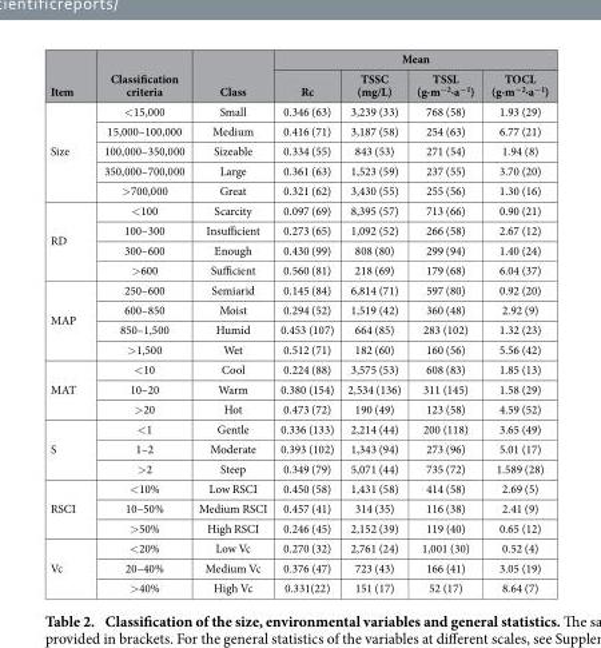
<table><thead><tr><td rowspan="2">Item</td><td rowspan="2">Classification criteria</td><td rowspan="2">Class</td><td colspan="4">Mean</td></tr><tr><td>Rc</td><td>TSSC (mg/L)</td><td>TSSL (g·m<sup>−2</sup>·a<sup>−1</sup>)</td><td>TOCL (g·m<sup>−2</sup>·a<sup>−1</sup>)</td></tr></thead><tbody><tr><td rowspan="5">Size</td><td>&lt; 15,000</td><td>Small</td><td>0.346 (63)</td><td>3,239 (33)</td><td>768 (58)</td><td>1.93 (29)</td></tr><tr><td>15,000–100,000</td><td>Medium</td><td>0.416 (71)</td><td>3,187 (58)</td><td>254 (63)</td><td>6.77 (21)</td></tr><tr><td>100,000–350,000</td><td>Sizeable</td><td>0.334 (55)</td><td>843 (53)</td><td>271 (54)</td><td>1.94 (8)</td></tr><tr><td>350,000–700,000</td><td>Large</td><td>0.361 (63)</td><td>1,523 (59)</td><td>237 (55)</td><td>3.70 (20)</td></tr><tr><td>&gt; 700,000</td><td>Great</td><td>0.321 (62)</td><td>3,430 (55)</td><td>255 (56)</td><td>1.30 (16)</td></tr><tr><td rowspan="4">RD</td><td>&lt; 100</td><td>Scarcity</td><td>0.097 (69)</td><td>8,395 (57)</td><td>713 (66)</td><td>0.90 (21)</td></tr><tr><td>100–300</td><td>Insufficient</td><td>0.273 (65)</td><td>1,092 (52)</td><td>266 (58)</td><td>2.67 (12)</td></tr><tr><td>300–600</td><td>Enough</td><td>0.430 (99)</td><td>808 (80)</td><td>299 (94)</td><td>1.40 (24)</td></tr><tr><td>&gt; 600</td><td>Sufficient</td><td>0.560 (81)</td><td>218 (69)</td><td>179 (68)</td><td>6.04 (37)</td></tr><tr><td rowspan="4">MAP</td><td>250–600</td><td>Semiarid</td><td>0.145 (84)</td><td>6,814 (71)</td><td>597 (80)</td><td>0.92 (20)</td></tr><tr><td>600–850</td><td>Moist</td><td>0.294 (52)</td><td>1,519 (42)</td><td>360 (48)</td><td>2.92 (9)</td></tr><tr><td>850–1,500</td><td>Humid</td><td>0.453 (107)</td><td>664 (85)</td><td>283 (102)</td><td>1.32 (23)</td></tr><tr><td>&gt; 1,500</td><td>Wet</td><td>0.512 (71)</td><td>182 (60)</td><td>160 (56)</td><td>5.56 (42)</td></tr><tr><td rowspan="3">MAT</td><td>&lt; 10</td><td>Cool</td><td>0.224 (88)</td><td>3,575 (53)</td><td>608 (83)</td><td>1.85 (13)</td></tr><tr><td>10–20</td><td>Warm</td><td>0.380 (154)</td><td>2,534 (136)</td><td>311 (145)</td><td>1.58 (29)</td></tr><tr><td>&gt; 20</td><td>Hot</td><td>0.473 (72)</td><td>190 (49)</td><td>123 (58)</td><td>4.59 (52)</td></tr><tr><td rowspan="3">S</td><td>&lt; 1</td><td>Gentle</td><td>0.336 (133)</td><td>2,214 (44)</td><td>200 (118)</td><td>3.65 (49)</td></tr><tr><td>1–2</td><td>Moderate</td><td>0.393 (102)</td><td>1,343 (94)</td><td>273 (96)</td><td>5.01 (17)</td></tr><tr><td>&gt; 2</td><td>Steep</td><td>0.349 (79)</td><td>5,071 (44)</td><td>735 (72)</td><td>1.589 (28)</td></tr><tr><td rowspan="3">RSCI</td><td>&lt; 10%</td><td>Low RSCI</td><td>0.450 (58)</td><td>1,431 (58)</td><td>414 (58)</td><td>2.69 (5)</td></tr><tr><td>10–50%</td><td>Medium RSCI</td><td>0.457 (41)</td><td>314 (35)</td><td>116 (38)</td><td>2.41 (9)</td></tr><tr><td>&gt; 50%</td><td>High RSCI</td><td>0.246 (45)</td><td>2,152 (39)</td><td>119 (40)</td><td>0.65 (12)</td></tr><tr><td rowspan="3">Vc</td><td>&lt; 20%</td><td>Low Vc</td><td>0.270 (32)</td><td>2,761 (24)</td><td>1,001 (30)</td><td>0.52 (4)</td></tr><tr><td>20–40%</td><td>Medium Vc</td><td>0.376 (47)</td><td>723 (43)</td><td>166 (41)</td><td>3.05 (19)</td></tr><tr><td>&gt; 40%</td><td>High Vc</td><td>0.331(22)</td><td>151 (17)</td><td>52 (17)</td><td>8.64 (7)</td></tr></tbody></table>